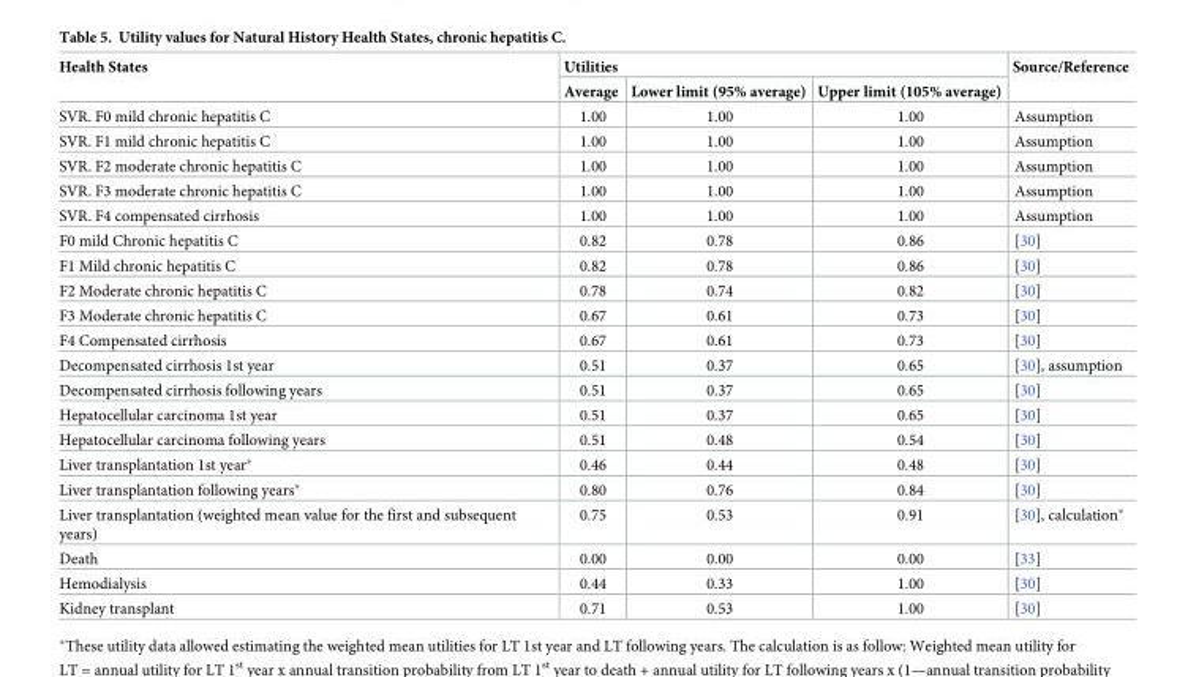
<table><thead><tr><td rowspan="2">Health States</td><td colspan="3">Utilities</td><td rowspan="2">Source/Reference</td></tr><tr><td>Average</td><td>Lower limit (95% average)</td><td>Upper limit (105% average)</td></tr></thead><tbody><tr><td>SVR. F0 mild chronic hepatitis C</td><td>1.00</td><td>1.00</td><td>1.00</td><td>Assumption</td></tr><tr><td>SVR. F1 mild chronic hepatitis C</td><td>1.00</td><td>1.00</td><td>1.00</td><td>Assumption</td></tr><tr><td>SVR. F2 moderate chronic hepatitis C</td><td>1.00</td><td>1.00</td><td>1.00</td><td>Assumption</td></tr><tr><td>SVR. F3 moderate chronic hepatitis C</td><td>1.00</td><td>1.00</td><td>1.00</td><td>Assumption</td></tr><tr><td>SVR. F4 compensated cirrhosis</td><td>1.00</td><td>1.00</td><td>1.00</td><td>Assumption</td></tr><tr><td>F0 mild Chronic hepatitis C</td><td>0.82</td><td>0.78</td><td>0.86</td><td>[30]</td></tr><tr><td>F1 Mild chronic hepatitis C</td><td>0.82</td><td>0.78</td><td>0.86</td><td>[30]</td></tr><tr><td>F2 Moderate chronic hepatitis C</td><td>0.78</td><td>0.74</td><td>0.82</td><td>[30]</td></tr><tr><td>F3 Moderate chronic hepatitis C</td><td>0.67</td><td>0.61</td><td>0.73</td><td>[30]</td></tr><tr><td>F4 Compensated cirrhosis</td><td>0.67</td><td>0.61</td><td>0.73</td><td>[30]</td></tr><tr><td>Decompensated cirrhosis 1st year</td><td>0.51</td><td>0.37</td><td>0.65</td><td>[30], assumption</td></tr><tr><td>Decompensated cirrhosis following years</td><td>0.51</td><td>0.37</td><td>0.65</td><td>[30]</td></tr><tr><td>Hepatocellular carcinoma 1st year</td><td>0.51</td><td>0.37</td><td>0.65</td><td>[30]</td></tr><tr><td>Hepatocellular carcinoma following years</td><td>0.51</td><td>0.48</td><td>0.54</td><td>[30]</td></tr><tr><td>Liver transplantation 1st year*</td><td>0.46</td><td>0.44</td><td>0.48</td><td>[30]</td></tr><tr><td>Liver transplantation following years*</td><td>0.80</td><td>0.76</td><td>0.84</td><td>[30]</td></tr><tr><td>Liver transplantation (weighted mean value for the first and subsequent years)</td><td>0.75</td><td>0.53</td><td>0.91</td><td>[30], calculation*</td></tr><tr><td>Death</td><td>0.00</td><td>0.00</td><td>0.00</td><td>[33]</td></tr><tr><td>Hemodialysis</td><td>0.44</td><td>0.33</td><td>1.00</td><td>[30]</td></tr><tr><td>Kidney transplant</td><td>0.71</td><td>0.53</td><td>1.00</td><td>[30]</td></tr></tbody></table>